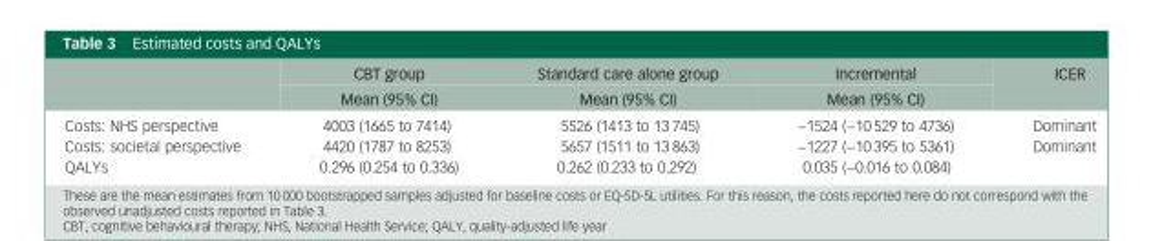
<table><thead><tr><td rowspan="2"></td><td rowspan="2">CBT group Mean (95% CI)</td><td rowspan="2">Standard care alone group Mean (95% CI)</td><td rowspan="2">Incremental Mean (95% CI)</td><td rowspan="2">ICER</td></tr><tr></tr></thead><tbody><tr><td>Costs: NHS perspective</td><td>4003 (1665 to 7414)</td><td>5526 (1413 to 13 745)</td><td>−1524 (−10 529 to 4736)</td><td>Dominant</td></tr><tr><td>Costs: societal perspective</td><td>4420 (1787 to 8253)</td><td>5657 (1511 to 13 863)</td><td>−1227 (−10 395 to 5361)</td><td>Dominant</td></tr><tr><td>QALYs</td><td>0.296 (0.254 to 0.336)</td><td>0.262 (0.233 to 0.292)</td><td>0.035 (−0.016 to 0.084)</td><td></td></tr></tbody></table>